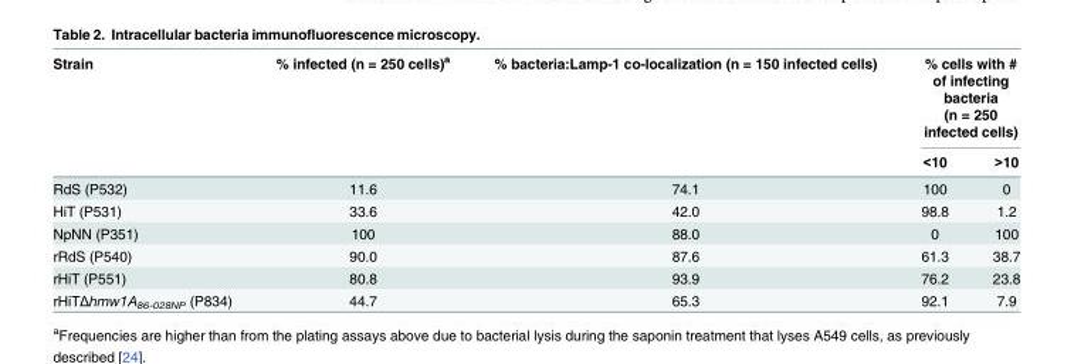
<table><thead><tr><td rowspan="2">Strain</td><td rowspan="2">% infected (n = 250 cells)<sup>a</sup></td><td rowspan="2">% bacteria:Lamp-1 co-localization (n = 150 infected cells)</td><td colspan="2">% cells with # of infecting bacteria (n = 250 infected cells)</td></tr><tr><td>&lt;10</td><td>&gt;10</td></tr></thead><tbody><tr><td>RdS (P532)</td><td>11.6</td><td>74.1</td><td>100</td><td>0</td></tr><tr><td>HiT (P531)</td><td>33.6</td><td>42.0</td><td>98.8</td><td>1.2</td></tr><tr><td>NpNN (P351)</td><td>100</td><td>88.0</td><td>0</td><td>100</td></tr><tr><td>rRdS (P540)</td><td>90.0</td><td>87.6</td><td>61.3</td><td>38.7</td></tr><tr><td>rHiT (P551)</td><td>80.8</td><td>93.9</td><td>76.2</td><td>23.8</td></tr><tr><td>rHiTΔhmw1A<sub>86-028NP</sub> (P834)</td><td>44.7</td><td>65.3</td><td>92.1</td><td>7.9</td></tr></tbody></table>